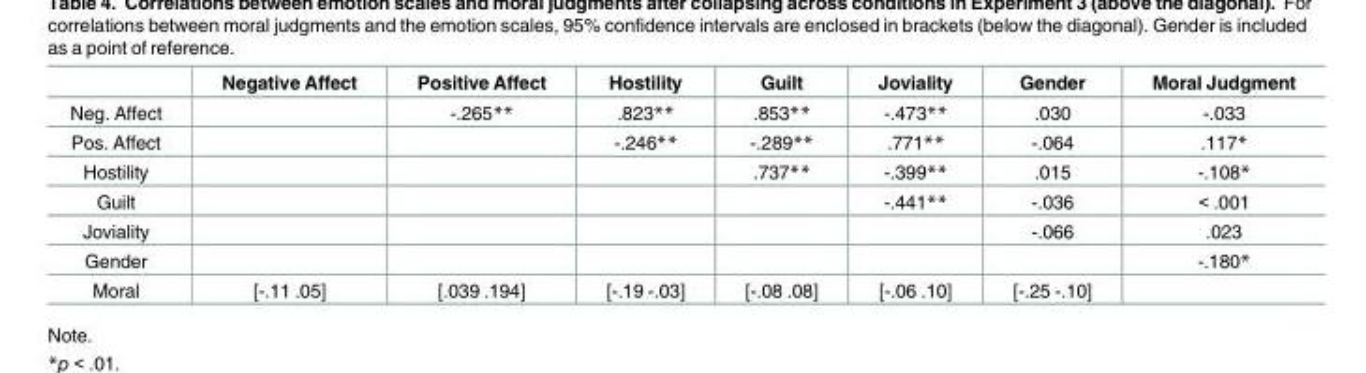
<table><thead><tr><td></td><td>Negative Affect</td><td>Positive Affect</td><td>Hostility</td><td>Guilt</td><td>Joviality</td><td>Gender</td><td>Moral Judgment</td></tr></thead><tbody><tr><td>Neg. Affect</td><td></td><td>-.265**</td><td>.823**</td><td>.853**</td><td>-.473**</td><td>.030</td><td>-.033</td></tr><tr><td>Pos. Affect</td><td></td><td></td><td>-.246**</td><td>-.289**</td><td>.771**</td><td>-.064</td><td>.117*</td></tr><tr><td>Hostility</td><td></td><td></td><td></td><td>.737**</td><td>-.399**</td><td>.015</td><td>-.108*</td></tr><tr><td>Guilt</td><td></td><td></td><td></td><td></td><td>-.441**</td><td>-.036</td><td>&lt; .001</td></tr><tr><td>Joviality</td><td></td><td></td><td></td><td></td><td></td><td>-.066</td><td>.023</td></tr><tr><td>Gender</td><td></td><td></td><td></td><td></td><td></td><td></td><td>-.180*</td></tr><tr><td>Moral</td><td>[-.11 .05]</td><td>[.039 .194]</td><td>[-.19 -.03]</td><td>[-.08 .08]</td><td>[-.06 .10]</td><td>[-.25 -.10]</td><td></td></tr></tbody></table>